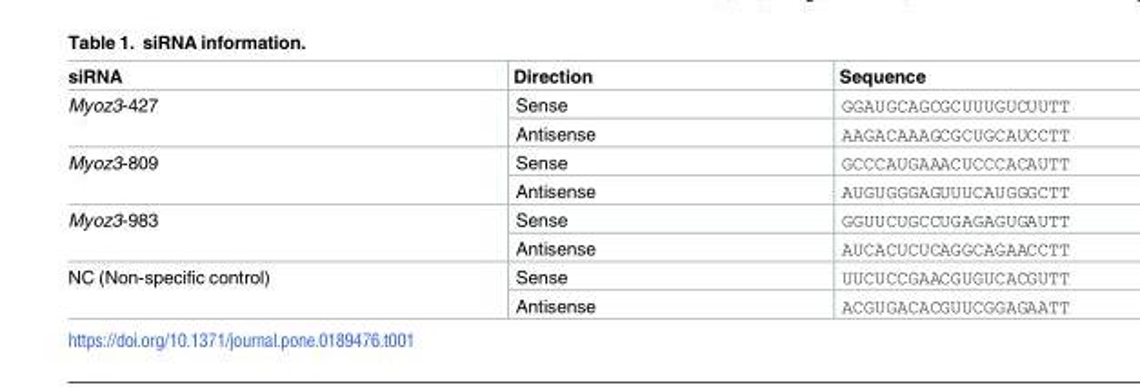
<table><thead><tr><td>siRNA</td><td>Direction</td><td>Sequence</td></tr></thead><tbody><tr><td rowspan="2">Myoz3-427</td><td>Sense</td><td>GGAUGCAGCGCUUUGUCUUTT</td></tr><tr><td>Antisense</td><td>AAGACAAAGCGCUGCAUCCTT</td></tr><tr><td rowspan="2">Myoz3-809</td><td>Sense</td><td>GCCCAUGAAACUCCCACAUTT</td></tr><tr><td>Antisense</td><td>AUGUGGGAGUUUCAUGGGCTT</td></tr><tr><td rowspan="2">Myoz3-983</td><td>Sense</td><td>GGUUCUGCCUGAGAGUGAUTT</td></tr><tr><td>Antisense</td><td>AUCACUCUCAGGCAGAACCTT</td></tr><tr><td rowspan="2">NC (Non-specific control)</td><td>Sense</td><td>UUCUCCGAACGUGUCACGUTT</td></tr><tr><td>Antisense</td><td>ACGUGACACGUUCGGAGAATT</td></tr></tbody></table>